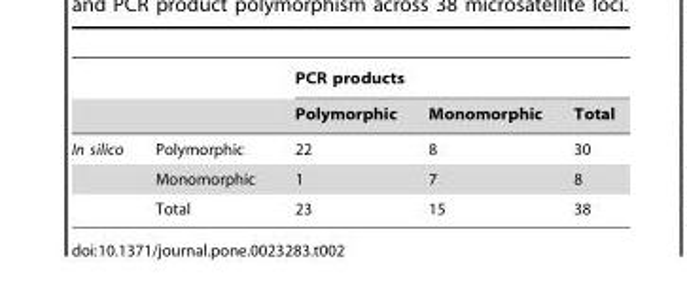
<table><thead><tr><td rowspan="2"></td><td rowspan="2"></td><td colspan="3">PCR products</td></tr><tr><td>Polymorphic</td><td>Monomorphic</td><td>Total</td></tr></thead><tbody><tr><td rowspan="3">In silico</td><td>Polymorphic</td><td>22</td><td>8</td><td>30</td></tr><tr><td>Monomorphic</td><td>1</td><td>7</td><td>8</td></tr><tr><td>Total</td><td>23</td><td>15</td><td>38</td></tr></tbody></table>